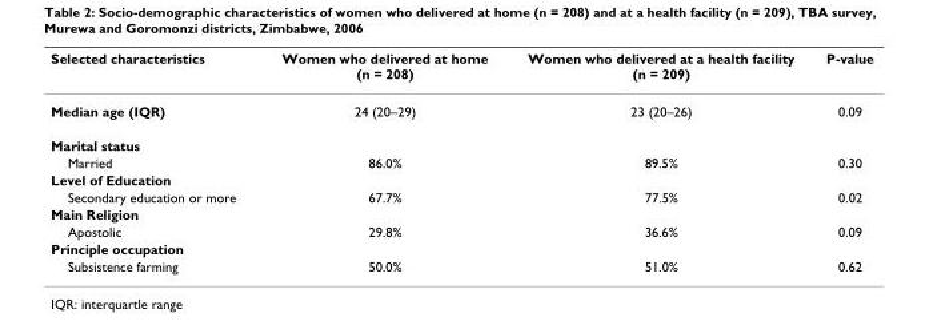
<table><thead><tr><td>Selected characteristics</td><td>Women who delivered at home (n = 208)</td><td>Women who delivered at a health facility (n = 209)</td><td>P-value</td></tr></thead><tbody><tr><td>Median age (IQR)</td><td>24 (20–29)</td><td>23 (20–26)</td><td>0.09</td></tr><tr><td colspan="4">Marital status</td></tr><tr><td>Married</td><td>86.0%</td><td>89.5%</td><td>0.30</td></tr><tr><td colspan="4">Level of Education</td></tr><tr><td>Secondary education or more</td><td>67.7%</td><td>77.5%</td><td>0.02</td></tr><tr><td colspan="4">Main Religion</td></tr><tr><td>Apostolic</td><td>29.8%</td><td>36.6%</td><td>0.09</td></tr><tr><td colspan="4">Principle occupation</td></tr><tr><td>Subsistence farming</td><td>50.0%</td><td>51.0%</td><td>0.62</td></tr></tbody></table>